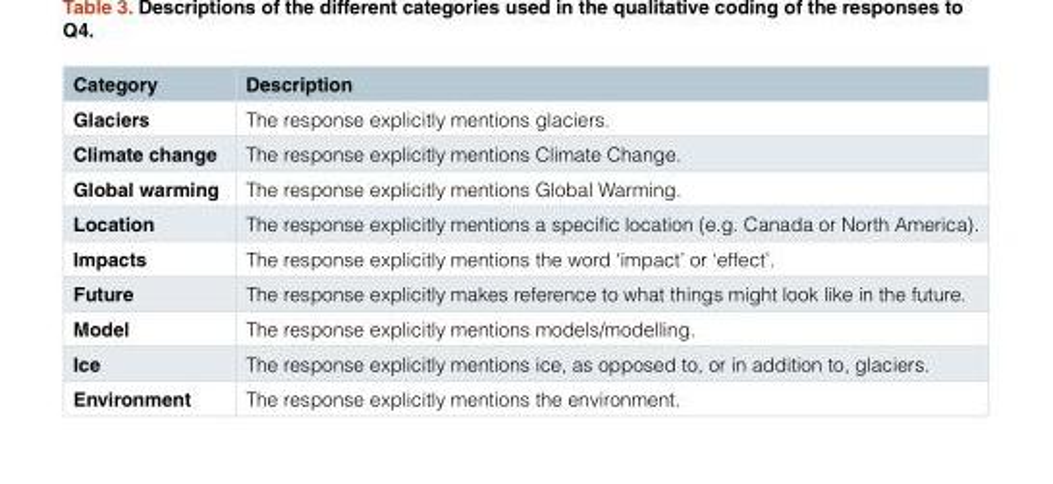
<table><thead><tr><td>Category</td><td>Description</td></tr></thead><tbody><tr><td>Glaciers</td><td>The response explicitly mentions glaciers.</td></tr><tr><td>Climate change</td><td>The response explicitly mentions Climate Change.</td></tr><tr><td>Global warming</td><td>The response explicitly mentions Global Warming.</td></tr><tr><td>Location</td><td>The response explicitly mentions a specific location (e.g. Canada or North America).</td></tr><tr><td>Impacts</td><td>The response explicitly mentions the word ‘impact’ or ‘effect’.</td></tr><tr><td>Future</td><td>The response explicitly makes reference to what things might look like in the future.</td></tr><tr><td>Model</td><td>The response explicitly mentions models/modelling.</td></tr><tr><td>Ice</td><td>The response explicitly mentions ice, as opposed to, or in addition to, glaciers.</td></tr><tr><td>Environment</td><td>The response explicitly mentions the environment.</td></tr></tbody></table>